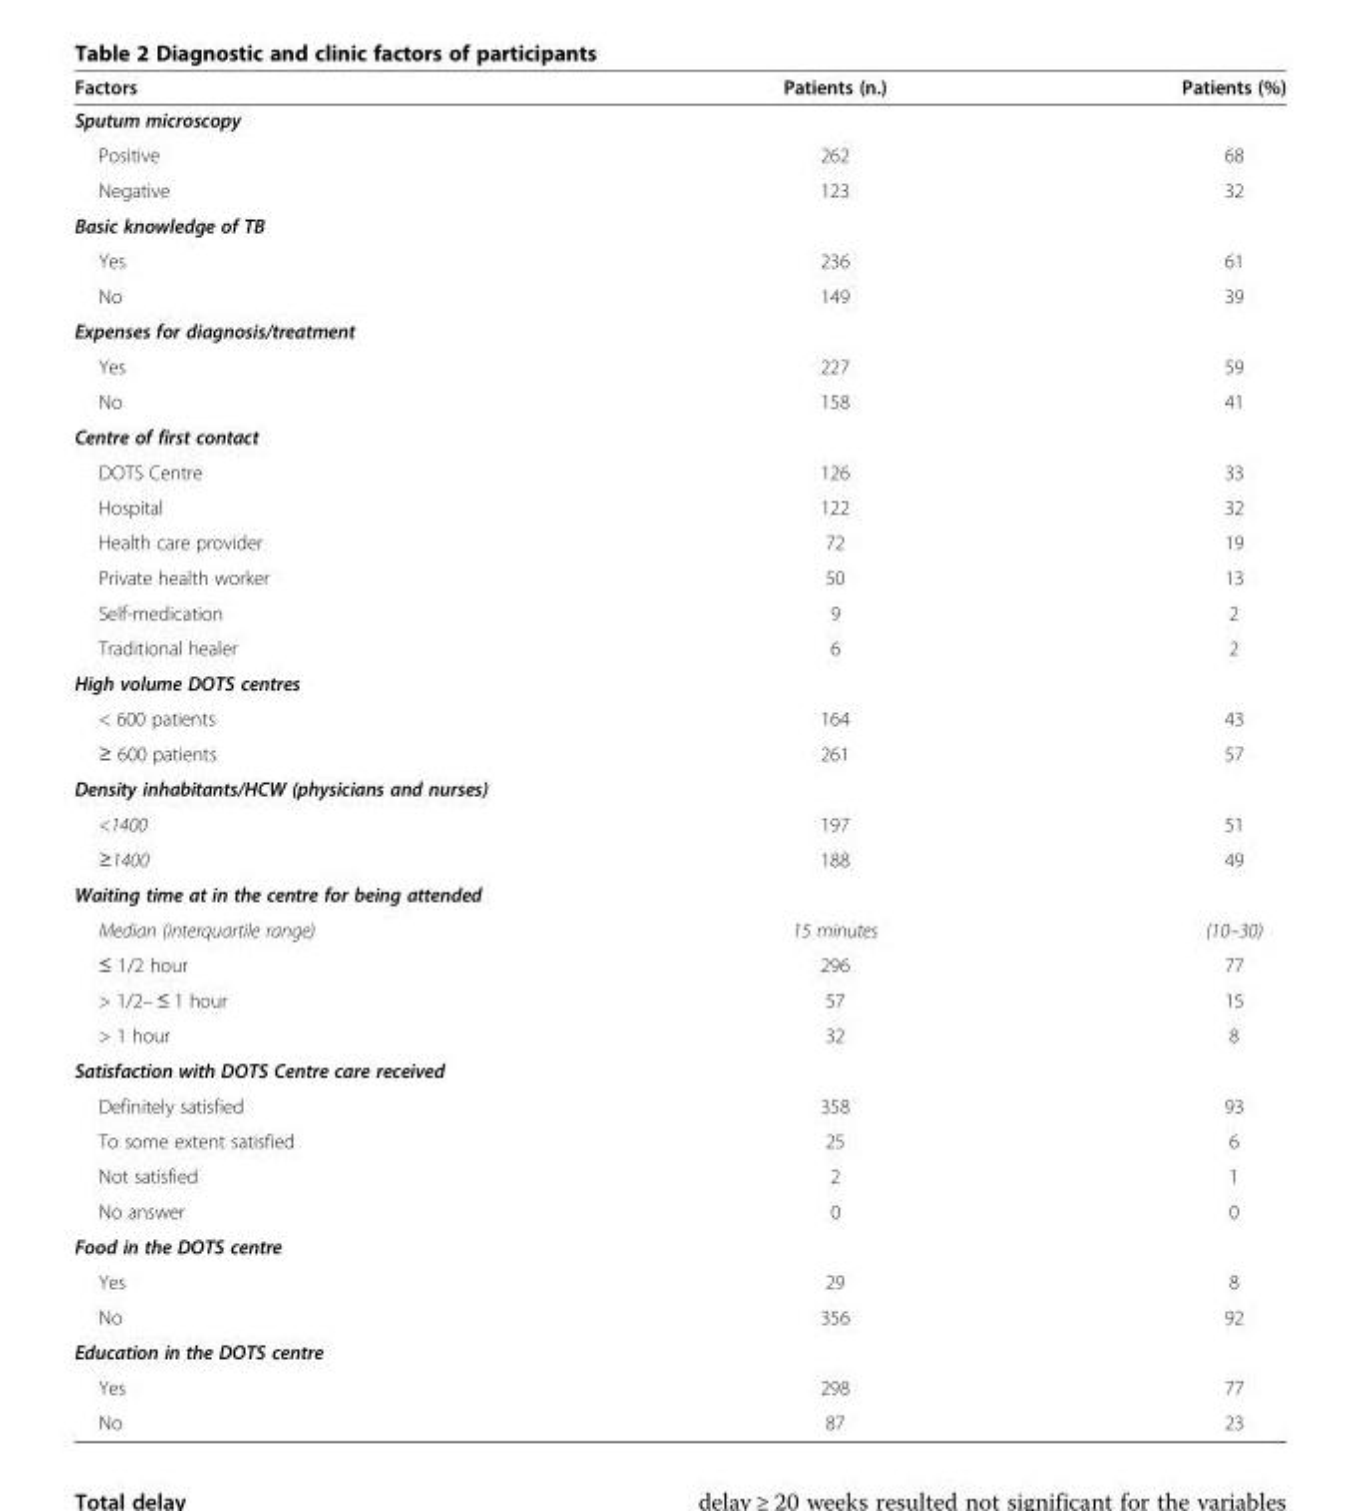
<table><thead><tr><td>Factors</td><td>Patients (n.)</td><td>Patients (%)</td></tr></thead><tbody><tr><td colspan="3">Sputum microscopy</td></tr><tr><td>Positive</td><td>262</td><td>68</td></tr><tr><td>Negative</td><td>123</td><td>32</td></tr><tr><td colspan="3">Basic knowledge of TB</td></tr><tr><td>Yes</td><td>236</td><td>61</td></tr><tr><td>No</td><td>149</td><td>39</td></tr><tr><td colspan="3">Expenses for diagnosis/treatment</td></tr><tr><td>Yes</td><td>227</td><td>59</td></tr><tr><td>No</td><td>158</td><td>41</td></tr><tr><td colspan="3">Centre of first contact</td></tr><tr><td>DOTS Centre</td><td>126</td><td>33</td></tr><tr><td>Hospital</td><td>122</td><td>32</td></tr><tr><td>Health care provider</td><td>72</td><td>19</td></tr><tr><td>Private health worker</td><td>50</td><td>13</td></tr><tr><td>Self-medication</td><td>9</td><td>2</td></tr><tr><td>Traditional healer</td><td>6</td><td>2</td></tr><tr><td colspan="3">High volume DOTS centres</td></tr><tr><td>&lt; 600 patients</td><td>164</td><td>43</td></tr><tr><td>≥ 600 patients</td><td>261</td><td>57</td></tr><tr><td colspan="3">Density inhabitants/HCW (physicians and nurses)</td></tr><tr><td>&lt;1400</td><td>197</td><td>51</td></tr><tr><td>≥1400</td><td>188</td><td>49</td></tr><tr><td colspan="3">Waiting time at in the centre for being attended</td></tr><tr><td>Median (interquartile range)</td><td>15 minutes</td><td>(10–30)</td></tr><tr><td>≤ 1/2 hour</td><td>296</td><td>77</td></tr><tr><td>&gt; 1/2– ≤ 1 hour</td><td>57</td><td>15</td></tr><tr><td>&gt; 1 hour</td><td>32</td><td>8</td></tr><tr><td colspan="3">Satisfaction with DOTS Centre care received</td></tr><tr><td>Definitely satisfied</td><td>358</td><td>93</td></tr><tr><td>To some extent satisfied</td><td>25</td><td>6</td></tr><tr><td>Not satisfied</td><td>2</td><td>1</td></tr><tr><td>No answer</td><td>0</td><td>0</td></tr><tr><td colspan="3">Food in the DOTS centre</td></tr><tr><td>Yes</td><td>29</td><td>8</td></tr><tr><td>No</td><td>356</td><td>92</td></tr><tr><td colspan="3">Education in the DOTS centre</td></tr><tr><td>Yes</td><td>298</td><td>77</td></tr><tr><td>No</td><td>87</td><td>23</td></tr></tbody></table>